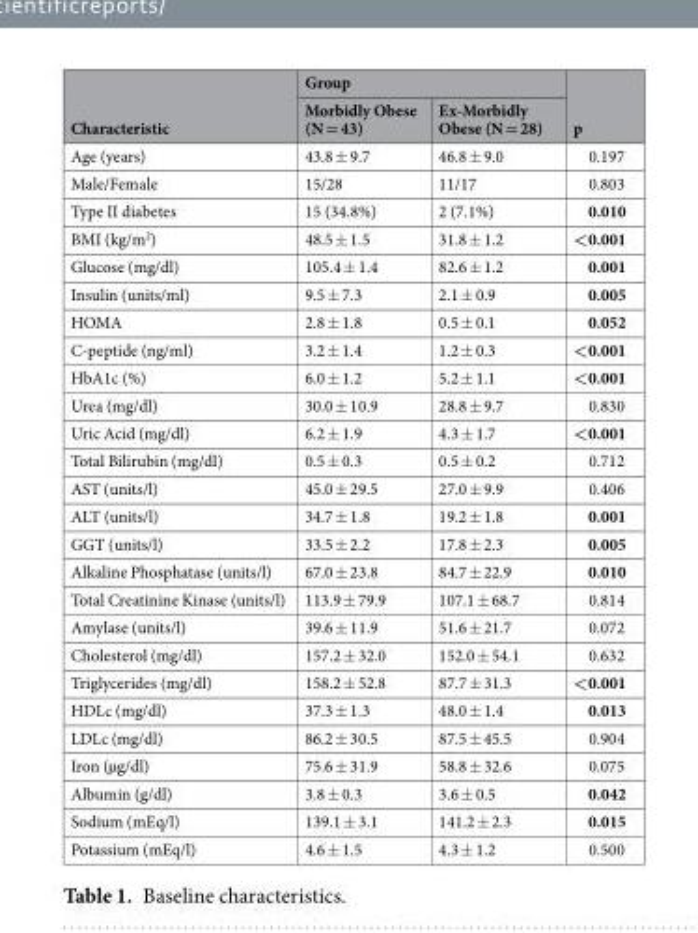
<table><thead><tr><td rowspan="2">Characteristic</td><td colspan="2">Group</td><td rowspan="2">p</td></tr><tr><td>Morbidly Obese (N = 43)</td><td>Ex-Morbidly Obese (N = 28)</td></tr></thead><tbody><tr><td>Age (years)</td><td>43.8 ± 9.7</td><td>46.8 ± 9.0</td><td>0.197</td></tr><tr><td>Male/Female</td><td>15/28</td><td>11/17</td><td>0.803</td></tr><tr><td>Type II diabetes</td><td>15 (34.8%)</td><td>2 (7.1%)</td><td>0.010</td></tr><tr><td>BMI (kg/m<sup>2</sup>)</td><td>48.5 ± 1.5</td><td>31.8 ± 1.2</td><td>&lt;0.001</td></tr><tr><td>Glucose (mg/dl)</td><td>105.4 ± 1.4</td><td>82.6 ± 1.2</td><td>0.001</td></tr><tr><td>Insulin (units/ml)</td><td>9.5 ± 7.3</td><td>2.1 ± 0.9</td><td>0.005</td></tr><tr><td>HOMA</td><td>2.8 ± 1.8</td><td>0.5 ± 0.1</td><td>0.052</td></tr><tr><td>C-peptide (ng/ml)</td><td>3.2 ± 1.4</td><td>1.2 ± 0.3</td><td>&lt;0.001</td></tr><tr><td>HbA1c (%)</td><td>6.0 ± 1.2</td><td>5.2 ± 1.1</td><td>&lt;0.001</td></tr><tr><td>Urea (mg/dl)</td><td>30.0 ± 10.9</td><td>28.8 ± 9.7</td><td>0.830</td></tr><tr><td>Uric Acid (mg/dl)</td><td>6.2 ± 1.9</td><td>4.3 ± 1.7</td><td>&lt;0.001</td></tr><tr><td>Total Bilirubin (mg/dl)</td><td>0.5 ± 0.3</td><td>0.5 ± 0.2</td><td>0.712</td></tr><tr><td>AST (units/l)</td><td>45.0 ± 29.5</td><td>27.0 ± 9.9</td><td>0.406</td></tr><tr><td>ALT (units/l)</td><td>34.7 ± 1.8</td><td>19.2 ± 1.8</td><td>0.001</td></tr><tr><td>GGT (units/l)</td><td>33.5 ± 2.2</td><td>17.8 ± 2.3</td><td>0.005</td></tr><tr><td>Alkaline Phosphatase (units/l)</td><td>67.0 ± 23.8</td><td>84.7 ± 22.9</td><td>0.010</td></tr><tr><td>Total Creatinine Kinase (units/l)</td><td>113.9 ± 79.9</td><td>107.1 ± 68.7</td><td>0.814</td></tr><tr><td>Amylase (units/l)</td><td>39.6 ± 11.9</td><td>51.6 ± 21.7</td><td>0.072</td></tr><tr><td>Cholesterol (mg/dl)</td><td>157.2 ± 32.0</td><td>152.0 ± 54.1</td><td>0.632</td></tr><tr><td>Triglycerides (mg/dl)</td><td>158.2 ± 52.8</td><td>87.7 ± 31.3</td><td>&lt;0.001</td></tr><tr><td>HDLc (mg/dl)</td><td>37.3 ± 1.3</td><td>48.0 ± 1.4</td><td>0.013</td></tr><tr><td>LDLc (mg/dl)</td><td>86.2 ± 30.5</td><td>87.5 ± 45.5</td><td>0.904</td></tr><tr><td>Iron (µg/dl)</td><td>75.6 ± 31.9</td><td>58.8 ± 32.6</td><td>0.075</td></tr><tr><td>Albumin (g/dl)</td><td>3.8 ± 0.3</td><td>3.6 ± 0.5</td><td>0.042</td></tr><tr><td>Sodium (mEq/l)</td><td>139.1 ± 3.1</td><td>141.2 ± 2.3</td><td>0.015</td></tr><tr><td>Potassium (mEq/l)</td><td>4.6 ± 1.5</td><td>4.3 ± 1.2</td><td>0.500</td></tr></tbody></table>